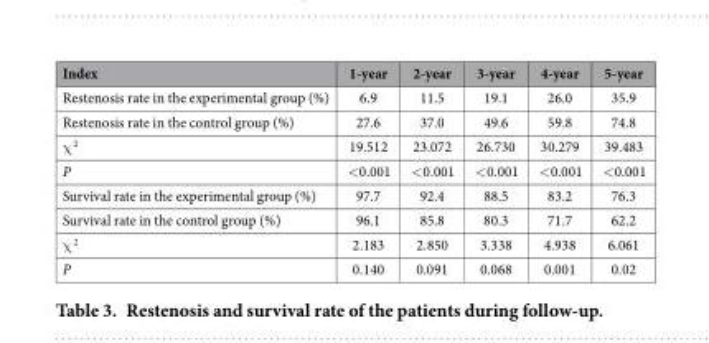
<table><thead><tr><td>Index</td><td>1-year</td><td>2-year</td><td>3-year</td><td>4-year</td><td>5-year</td></tr></thead><tbody><tr><td>Restenosis rate in the experimental group (%)</td><td>6.9</td><td>11.5</td><td>19.1</td><td>26.0</td><td>35.9</td></tr><tr><td>Restenosis rate in the control group (%)</td><td>27.6</td><td>37.0</td><td>49.6</td><td>59.8</td><td>74.8</td></tr><tr><td>χ <sup>2</sup></td><td>19.512</td><td>23.072</td><td>26.730</td><td>30.279</td><td>39.483</td></tr><tr><td>P</td><td>&lt;0.001</td><td>&lt;0.001</td><td>&lt;0.001</td><td>&lt;0.001</td><td>&lt;0.001</td></tr><tr><td>Survival rate in the experimental group (%)</td><td>97.7</td><td>92.4</td><td>88.5</td><td>83.2</td><td>76.3</td></tr><tr><td>Survival rate in the control group (%)</td><td>96.1</td><td>85.8</td><td>80.3</td><td>71.7</td><td>62.2</td></tr><tr><td>χ <sup>2</sup></td><td>2.183</td><td>2.850</td><td>3.338</td><td>4.938</td><td>6.061</td></tr><tr><td>P</td><td>0.140</td><td>0.091</td><td>0.068</td><td>0.001</td><td>0.02</td></tr></tbody></table>